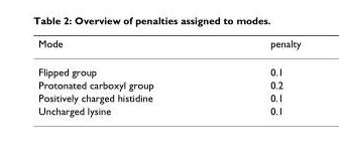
<table><thead><tr><td>Mode</td><td>penalty</td></tr></thead><tbody><tr><td>Flipped group</td><td>0.1</td></tr><tr><td>Protonated carboxyl group</td><td>0.2</td></tr><tr><td>Positively charged histidine</td><td>0.1</td></tr><tr><td>Uncharged lysine</td><td>0.1</td></tr></tbody></table>